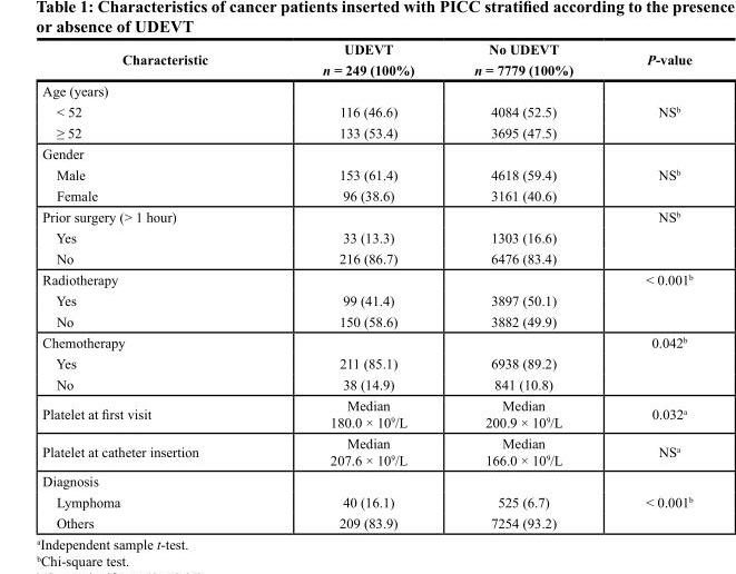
<table><thead><tr><td>Characteristic</td><td>UDEVT n = 249 (100%)</td><td>No UDEVT n = 7779 (100%)</td><td>P-value</td></tr></thead><tbody><tr><td colspan="4">Age (years)</td></tr><tr><td>&lt; 52</td><td>116 (46.6)</td><td>4084 (52.5)</td><td>NS<sup>b</sup></td></tr><tr><td>≥ 52</td><td>133 (53.4)</td><td>3695 (47.5)</td><td></td></tr><tr><td colspan="4">Gender</td></tr><tr><td>Male</td><td>153 (61.4)</td><td>4618 (59.4)</td><td>NS<sup>b</sup></td></tr><tr><td>Female</td><td>96 (38.6)</td><td>3161 (40.6)</td><td></td></tr><tr><td>Prior surgery (&gt; 1 hour)</td><td></td><td></td><td>NS<sup>b</sup></td></tr><tr><td>Yes</td><td>33 (13.3)</td><td>1303 (16.6)</td><td></td></tr><tr><td>No</td><td>216 (86.7)</td><td>6476 (83.4)</td><td></td></tr><tr><td>Radiotherapy</td><td></td><td></td><td>&lt; 0.001<sup>b</sup></td></tr><tr><td>Yes</td><td>99 (41.4)</td><td>3897 (50.1)</td><td></td></tr><tr><td>No</td><td>150 (58.6)</td><td>3882 (49.9)</td><td></td></tr><tr><td>Chemotherapy</td><td></td><td></td><td>0.042<sup>b</sup></td></tr><tr><td>Yes</td><td>211 (85.1)</td><td>6938 (89.2)</td><td></td></tr><tr><td>No</td><td>38 (14.9)</td><td>841 (10.8)</td><td></td></tr><tr><td>Platelet at first visit</td><td>Median 180.0 × 10<sup>9</sup>/L</td><td>Median 200.9 × 10<sup>9</sup>/L</td><td>0.032<sup>a</sup></td></tr><tr><td>Platelet at catheter insertion</td><td>Median 207.6 × 10<sup>9</sup>/L</td><td>Median 166.0 × 10<sup>9</sup>/L</td><td>NS<sup>a</sup></td></tr><tr><td colspan="4">Diagnosis</td></tr><tr><td>Lymphoma</td><td>40 (16.1)</td><td>525 (6.7)</td><td>&lt; 0.001<sup>b</sup></td></tr><tr><td>Others</td><td>209 (83.9)</td><td>7254 (93.2)</td><td></td></tr></tbody></table>